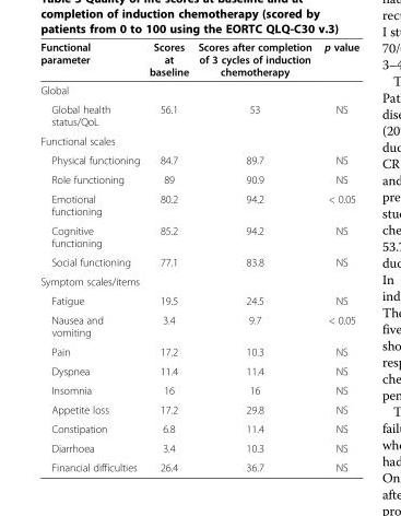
<table><thead><tr><td>Functional parameter</td><td>Scores at baseline</td><td>Scores after completion of 3 cycles of induction chemotherapy</td><td>p value</td></tr></thead><tbody><tr><td colspan="4">Global</td></tr><tr><td>Global health status/QoL</td><td>56.1</td><td>53</td><td>NS</td></tr><tr><td colspan="4">Functional scales</td></tr><tr><td>Physical functioning</td><td>84.7</td><td>89.7</td><td>NS</td></tr><tr><td>Role functioning</td><td>89</td><td>90.9</td><td>NS</td></tr><tr><td>Emotional functioning</td><td>80.2</td><td>94.2</td><td>&lt; 0.05</td></tr><tr><td>Cognitive functioning</td><td>85.2</td><td>94.2</td><td>NS</td></tr><tr><td>Social functioning</td><td>77.1</td><td>83.8</td><td>NS</td></tr><tr><td colspan="4">Symptom scales/items</td></tr><tr><td>Fatigue</td><td>19.5</td><td>24.5</td><td>NS</td></tr><tr><td>Nausea and vomiting</td><td>3.4</td><td>9.7</td><td>&lt; 0.05</td></tr><tr><td>Pain</td><td>17.2</td><td>10.3</td><td>NS</td></tr><tr><td>Dyspnea</td><td>11.4</td><td>11.4</td><td>NS</td></tr><tr><td>Insomnia</td><td>16</td><td>16</td><td>NS</td></tr><tr><td>Appetite loss</td><td>17.2</td><td>29.8</td><td>NS</td></tr><tr><td>Constipation</td><td>6.8</td><td>11.4</td><td>NS</td></tr><tr><td>Diarrhoea</td><td>3.4</td><td>10.3</td><td>NS</td></tr><tr><td>Financial difficulties</td><td>26.4</td><td>36.7</td><td>NS</td></tr></tbody></table>